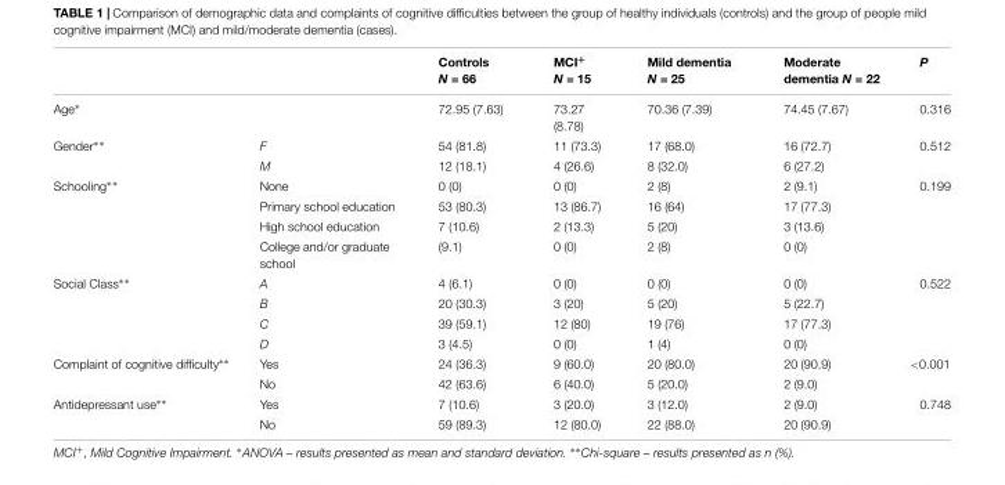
<table><thead><tr><td></td><td></td><td>Controls N = 66</td><td>MCI<sup>+</sup> N = 15</td><td>Mild dementia N = 25</td><td>Moderate dementia N = 22</td><td>P</td></tr></thead><tbody><tr><td>Age∗</td><td></td><td>72.95 (7.63)</td><td>73.27 (8.78)</td><td>70.36 (7.39)</td><td>74.45 (7.67)</td><td>0.316</td></tr><tr><td rowspan="2">Gender∗∗</td><td>F</td><td>54 (81.8)</td><td>11 (73.3)</td><td>17 (68.0)</td><td>16 (72.7)</td><td>0.512</td></tr><tr><td>M</td><td>12 (18.1)</td><td>4 (26.6)</td><td>8 (32.0)</td><td>6 (27.2)</td><td></td></tr><tr><td rowspan="4">Schooling∗∗</td><td>None</td><td>0 (0)</td><td>0 (0)</td><td>2 (8)</td><td>2 (9.1)</td><td>0.199</td></tr><tr><td>Primary school education</td><td>53 (80.3)</td><td>13 (86.7)</td><td>16 (64)</td><td>17 (77.3)</td><td></td></tr><tr><td>High school education</td><td>7 (10.6)</td><td>2 (13.3)</td><td>5 (20)</td><td>3 (13.6)</td><td></td></tr><tr><td>College and/or graduate school</td><td>(9.1)</td><td>0 (0)</td><td>2 (8)</td><td>0 (0)</td><td></td></tr><tr><td rowspan="4">Social Class∗∗</td><td>A</td><td>4 (6.1)</td><td>0 (0)</td><td>0 (0)</td><td>0 (0)</td><td>0.522</td></tr><tr><td>B</td><td>20 (30.3)</td><td>3 (20)</td><td>5 (20)</td><td>5 (22.7)</td><td></td></tr><tr><td>C</td><td>39 (59.1)</td><td>12 (80)</td><td>19 (76)</td><td>17 (77.3)</td><td></td></tr><tr><td>D</td><td>3 (4.5)</td><td>0 (0)</td><td>1 (4)</td><td>0 (0)</td><td></td></tr><tr><td rowspan="2">Complaint of cognitive difficulty∗∗</td><td>Yes</td><td>24 (36.3)</td><td>9 (60.0)</td><td>20 (80.0)</td><td>20 (90.9)</td><td>&lt;0.001</td></tr><tr><td>No</td><td>42 (63.6)</td><td>6 (40.0)</td><td>5 (20.0)</td><td>2 (9.0)</td><td></td></tr><tr><td rowspan="2">Antidepressant use∗∗</td><td>Yes</td><td>7 (10.6)</td><td>3 (20.0)</td><td>3 (12.0)</td><td>2 (9.0)</td><td>0.748</td></tr><tr><td>No</td><td>59 (89.3)</td><td>12 (80.0)</td><td>22 (88.0)</td><td>20 (90.9)</td><td></td></tr></tbody></table>